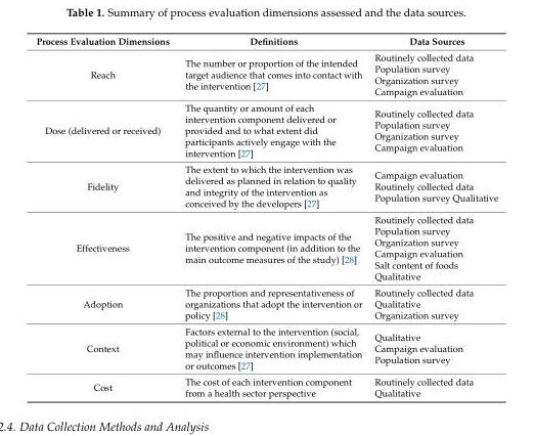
<table><thead><tr><td>Process Evaluation Dimensions</td><td>Definitions</td><td>Data Sources</td></tr></thead><tbody><tr><td>Reach</td><td>The number or proportion of the intended target audience that comes into contact with the intervention [27]</td><td>Routinely collected data Population survey Organization survey Campaign evaluation</td></tr><tr><td>Dose (delivered or received)</td><td>The quantity or amount of each intervention component delivered or provided and to what extent did participants actively engage with the intervention [27]</td><td>Routinely collected data Population survey Organization survey Campaign evaluation</td></tr><tr><td>Fidelity</td><td>The extent to which the intervention was delivered as planned in relation to quality and integrity of the intervention as conceived by the developers [27]</td><td>Campaign evaluation Routinely collected data Population survey Qualitative</td></tr><tr><td>Effectiveness</td><td>The positive and negative impacts of the intervention component (in addition to the main outcome measures of the study) [28]</td><td>Routinely collected data Population survey Organization survey Campaign evaluation Salt content of foods Qualitative</td></tr><tr><td>Adoption</td><td>The proportion and representativeness of organizations that adopt the intervention or policy [28]</td><td>Routinely collected data Qualitative Organization survey</td></tr><tr><td>Context</td><td>Factors external to the intervention (social, political or economic environment) which may influence intervention implementation or outcomes [27]</td><td>Qualitative Campaign evaluation Population survey</td></tr><tr><td>Cost</td><td>The cost of each intervention component from a health sector perspective</td><td>Routinely collected data Qualitative</td></tr></tbody></table>